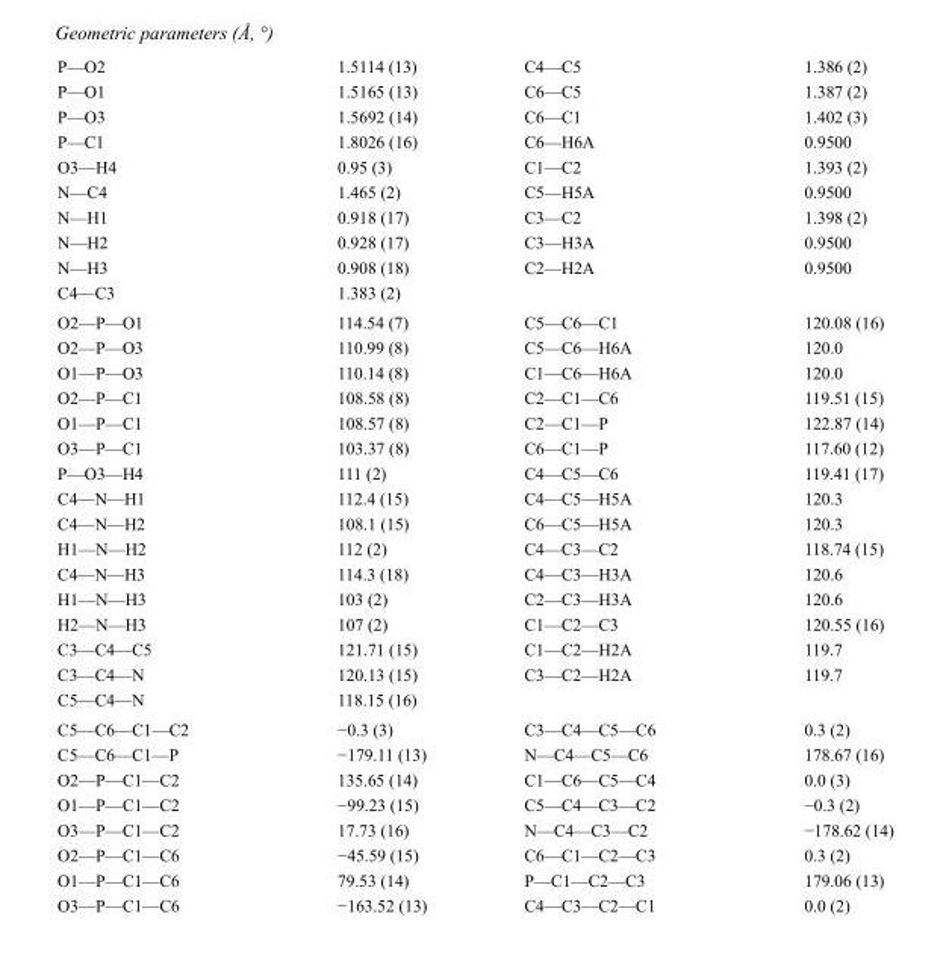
<table><tbody><tr><td>P—O2</td><td>1.5114 (13)</td><td>C4—C5</td><td>1.386 (2)</td></tr><tr><td>P—O1</td><td>1.5165 (13)</td><td>C6—C5</td><td>1.387 (2)</td></tr><tr><td>P—O3</td><td>1.5692 (14)</td><td>C6—C1</td><td>1.402 (3)</td></tr><tr><td>P—C1</td><td>1.8026 (16)</td><td>C6—H6A</td><td>0.9500</td></tr><tr><td>O3—H4</td><td>0.95 (3)</td><td>C1—C2</td><td>1.393 (2)</td></tr><tr><td>N—C4</td><td>1.465 (2)</td><td>C5—H5A</td><td>0.9500</td></tr><tr><td>N—H1</td><td>0.918 (17)</td><td>C3—C2</td><td>1.398 (2)</td></tr><tr><td>N—H2</td><td>0.928 (17)</td><td>C3—H3A</td><td>0.9500</td></tr><tr><td>N—H3</td><td>0.908 (18)</td><td>C2—H2A</td><td>0.9500</td></tr><tr><td>C4—C3</td><td>1.383 (2)</td><td></td><td></td></tr><tr><td>O2—P—O1</td><td>114.54 (7)</td><td>C5—C6—C1</td><td>120.08 (16)</td></tr><tr><td>O2—P—O3</td><td>110.99 (8)</td><td>C5—C6—H6A</td><td>120.0</td></tr><tr><td>O1—P—O3</td><td>110.14 (8)</td><td>C1—C6—H6A</td><td>120.0</td></tr><tr><td>O2—P—C1</td><td>108.58 (8)</td><td>C2—C1—C6</td><td>119.51 (15)</td></tr><tr><td>O1—P—C1</td><td>108.57 (8)</td><td>C2—C1—P</td><td>122.87 (14)</td></tr><tr><td>O3—P—C1</td><td>103.37 (8)</td><td>C6—C1—P</td><td>117.60 (12)</td></tr><tr><td>P—O3—H4</td><td>111 (2)</td><td>C4—C5—C6</td><td>119.41 (17)</td></tr><tr><td>C4—N—H1</td><td>112.4 (15)</td><td>C4—C5—H5A</td><td>120.3</td></tr><tr><td>C4—N—H2</td><td>108.1 (15)</td><td>C6—C5—H5A</td><td>120.3</td></tr><tr><td>H1—N—H2</td><td>112 (2)</td><td>C4—C3—C2</td><td>118.74 (15)</td></tr><tr><td>C4—N—H3</td><td>114.3 (18)</td><td>C4—C3—H3A</td><td>120.6</td></tr><tr><td>H1—N—H3</td><td>103 (2)</td><td>C2—C3—H3A</td><td>120.6</td></tr><tr><td>H2—N—H3</td><td>107 (2)</td><td>C1—C2—C3</td><td>120.55 (16)</td></tr><tr><td>C3—C4—C5</td><td>121.71 (15)</td><td>C1—C2—H2A</td><td>119.7</td></tr><tr><td>C3—C4—N</td><td>120.13 (15)</td><td>C3—C2—H2A</td><td>119.7</td></tr><tr><td>C5—C4—N</td><td>118.15 (16)</td><td></td><td></td></tr><tr><td>C5—C6—C1—C2</td><td>−0.3 (3)</td><td>C3—C4—C5—C6</td><td>0.3 (2)</td></tr><tr><td>C5—C6—C1—P</td><td>−179.11 (13)</td><td>N—C4—C5—C6</td><td>178.67 (16)</td></tr><tr><td>O2—P—C1—C2</td><td>135.65 (14)</td><td>C1—C6—C5—C4</td><td>0.0 (3)</td></tr><tr><td>O1—P—C1—C2</td><td>−99.23 (15)</td><td>C5—C4—C3—C2</td><td>−0.3 (2)</td></tr><tr><td>O3—P—C1—C2</td><td>17.73 (16)</td><td>N—C4—C3—C2</td><td>−178.62 (14)</td></tr><tr><td>O2—P—C1—C6</td><td>−45.59 (15)</td><td>C6—C1—C2—C3</td><td>0.3 (2)</td></tr><tr><td>O1—P—C1—C6</td><td>79.53 (14)</td><td>P—C1—C2—C3</td><td>179.06 (13)</td></tr><tr><td>O3—P—C1—C6</td><td>−163.52 (13)</td><td>C4—C3—C2—C1</td><td>0.0 (2)</td></tr></tbody></table>